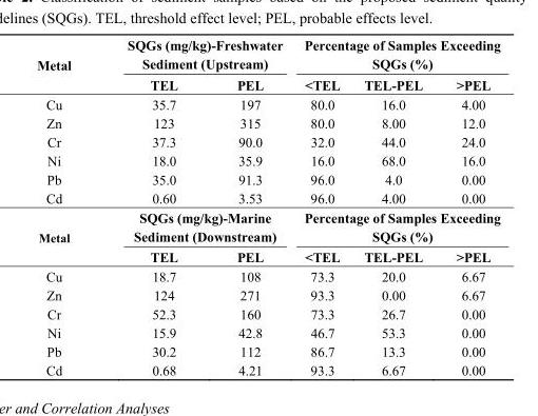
<table><thead><tr><td rowspan="2">Metal</td><td colspan="2">SQGs (mg/kg)-Freshwater Sediment (Upstream)</td><td colspan="3">Percentage of Samples Exceeding SQGs (%)</td></tr><tr><td>TEL</td><td>PEL</td><td>&lt;TEL</td><td>TEL-PEL</td><td>&gt;PEL</td></tr></thead><tbody><tr><td>Cu</td><td>35.7</td><td>197</td><td>80.0</td><td>16.0</td><td>4.00</td></tr><tr><td>Zn</td><td>123</td><td>315</td><td>80.0</td><td>8.00</td><td>12.0</td></tr><tr><td>Cr</td><td>37.3</td><td>90.0</td><td>32.0</td><td>44.0</td><td>24.0</td></tr><tr><td>Ni</td><td>18.0</td><td>35.9</td><td>16.0</td><td>68.0</td><td>16.0</td></tr><tr><td>Pb</td><td>35.0</td><td>91.3</td><td>96.0</td><td>4.0</td><td>0.00</td></tr><tr><td>Cd</td><td>0.60</td><td>3.53</td><td>96.0</td><td>4.00</td><td>0.00</td></tr><tr><td rowspan="2">Metal</td><td colspan="2">SQGs (mg/kg)-Marine Sediment (Downstream)</td><td colspan="3">Percentage of Samples Exceeding SQGs (%)</td></tr><tr><td>TEL</td><td>PEL</td><td>&lt;TEL</td><td>TEL-PEL</td><td>&gt;PEL</td></tr><tr><td>Cu</td><td>18.7</td><td>108</td><td>73.3</td><td>20.0</td><td>6.67</td></tr><tr><td>Zn</td><td>124</td><td>271</td><td>93.3</td><td>0.00</td><td>6.67</td></tr><tr><td>Cr</td><td>52.3</td><td>160</td><td>73.3</td><td>26.7</td><td>0.00</td></tr><tr><td>Ni</td><td>15.9</td><td>42.8</td><td>46.7</td><td>53.3</td><td>0.00</td></tr><tr><td>Pb</td><td>30.2</td><td>112</td><td>86.7</td><td>13.3</td><td>0.00</td></tr><tr><td>Cd</td><td>0.68</td><td>4.21</td><td>93.3</td><td>6.67</td><td>0.00</td></tr></tbody></table>